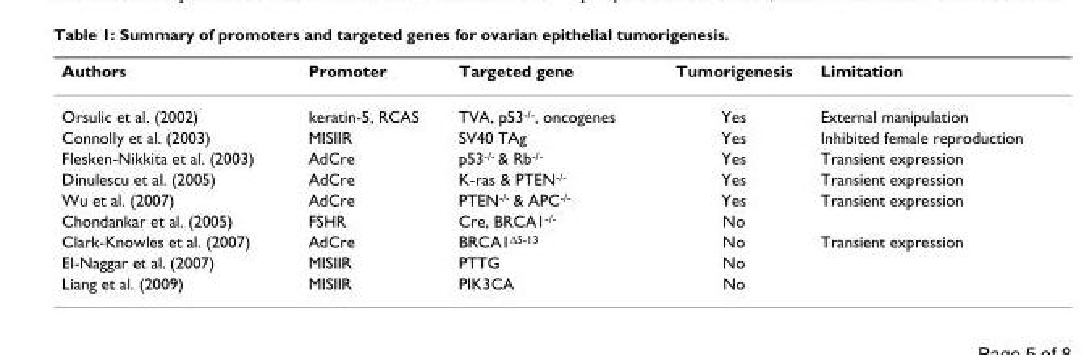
<table><thead><tr><td>Authors</td><td>Promoter</td><td>Targeted gene</td><td>Tumorigenesis</td><td>Limitation</td></tr></thead><tbody><tr><td>Orsulic et al. (2002)</td><td>keratin-5, RCAS</td><td>TVA, p53<sup>-/-</sup>, oncogenes</td><td>Yes</td><td>External manipulation</td></tr><tr><td>Connolly et al. (2003)</td><td>MISIIR</td><td>SV40 TAg</td><td>Yes</td><td>Inhibited female reproduction</td></tr><tr><td>Flesken-Nikkita et al. (2003)</td><td>AdCre</td><td>p53<sup>-/-</sup> &amp; Rb<sup>-/-</sup></td><td>Yes</td><td>Transient expression</td></tr><tr><td>Dinulescu et al. (2005)</td><td>AdCre</td><td>K-ras &amp; PTEN<sup>-/-</sup></td><td>Yes</td><td>Transient expression</td></tr><tr><td>Wu et al. (2007)</td><td>AdCre</td><td>PTEN<sup>-/-</sup> &amp; APC<sup>-/-</sup></td><td>Yes</td><td>Transient expression</td></tr><tr><td>Chondankar et al. (2005)</td><td>FSHR</td><td>Cre, BRCA1<sup>-/-</sup></td><td>No</td><td></td></tr><tr><td>Clark-Knowles et al. (2007)</td><td>AdCre</td><td>BRCA1<sup>Δ5-13</sup></td><td>No</td><td>Transient expression</td></tr><tr><td>El-Naggar et al. (2007)</td><td>MISIIR</td><td>PTTG</td><td>No</td><td></td></tr><tr><td>Liang et al. (2009)</td><td>MISIIR</td><td>PIK3CA</td><td>No</td><td></td></tr></tbody></table>